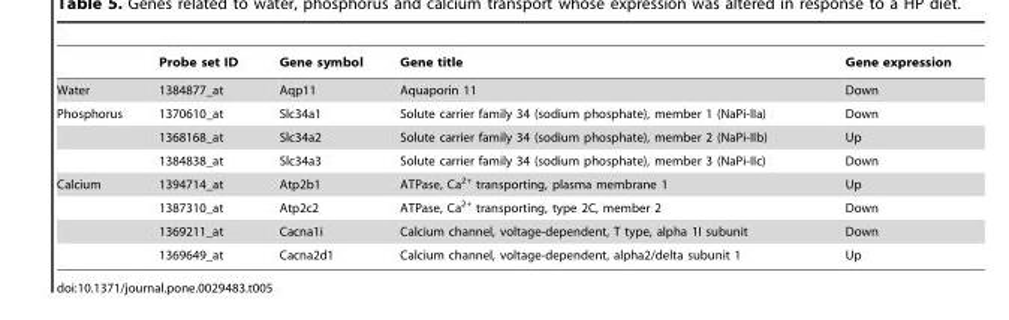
<table><thead><tr><td></td><td>Probe set ID</td><td>Gene symbol</td><td>Gene title</td><td>Gene expression</td></tr></thead><tbody><tr><td>Water</td><td>1384877_at</td><td>Aqp11</td><td>Aquaporin 11</td><td>Down</td></tr><tr><td rowspan="3">Phosphorus</td><td>1370610_at</td><td>Slc34a1</td><td>Solute carrier family 34 (sodium phosphate), member 1 (NaPi-IIa)</td><td>Down</td></tr><tr><td>1368168_at</td><td>Slc34a2</td><td>Solute carrier family 34 (sodium phosphate), member 2 (NaPi-IIb)</td><td>Up</td></tr><tr><td>1384838_at</td><td>Slc34a3</td><td>Solute carrier family 34 (sodium phosphate), member 3 (NaPi-IIc)</td><td>Down</td></tr><tr><td rowspan="4">Calcium</td><td>1394714_at</td><td>Atp2b1</td><td>ATPase, Ca<sup>2+</sup> transporting, plasma membrane 1</td><td>Up</td></tr><tr><td>1387310_at</td><td>Atp2c2</td><td>ATPase, Ca<sup>2+</sup> transporting, type 2C, member 2</td><td>Down</td></tr><tr><td>1369211_at</td><td>Cacna1i</td><td>Calcium channel, voltage-dependent, T type, alpha 1I subunit</td><td>Down</td></tr><tr><td>1369649_at</td><td>Cacna2d1</td><td>Calcium channel, voltage-dependent, alpha2/delta subunit 1</td><td>Up</td></tr></tbody></table>